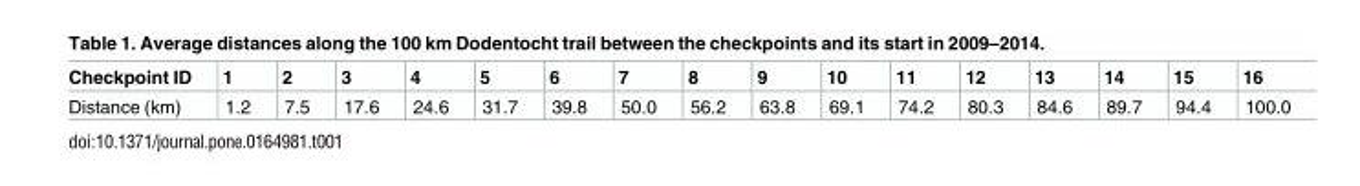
<table><thead><tr><td>Checkpoint ID</td><td>1</td><td>2</td><td>3</td><td>4</td><td>5</td><td>6</td><td>7</td><td>8</td><td>9</td><td>10</td><td>11</td><td>12</td><td>13</td><td>14</td><td>15</td><td>16</td></tr></thead><tbody><tr><td>Distance (km)</td><td>1.2</td><td>7.5</td><td>17.6</td><td>24.6</td><td>31.7</td><td>39.8</td><td>50.0</td><td>56.2</td><td>63.8</td><td>69.1</td><td>74.2</td><td>80.3</td><td>84.6</td><td>89.7</td><td>94.4</td><td>100.0</td></tr></tbody></table>